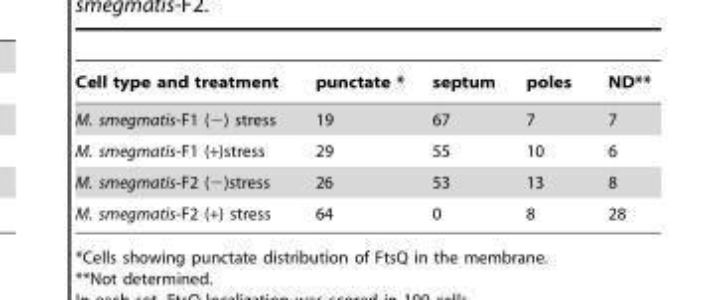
<table><thead><tr><td>Cell type and treatment</td><td>punctate *</td><td>septum</td><td>poles</td><td>ND**</td></tr></thead><tbody><tr><td>M. smegmatis-F1 (−) stress</td><td>19</td><td>67</td><td>7</td><td>7</td></tr><tr><td>M. smegmatis-F1 (+)stress</td><td>29</td><td>55</td><td>10</td><td>6</td></tr><tr><td>M. smegmatis-F2 (−)stress</td><td>26</td><td>53</td><td>13</td><td>8</td></tr><tr><td>M. smegmatis-F2 (+) stress</td><td>64</td><td>0</td><td>8</td><td>28</td></tr></tbody></table>